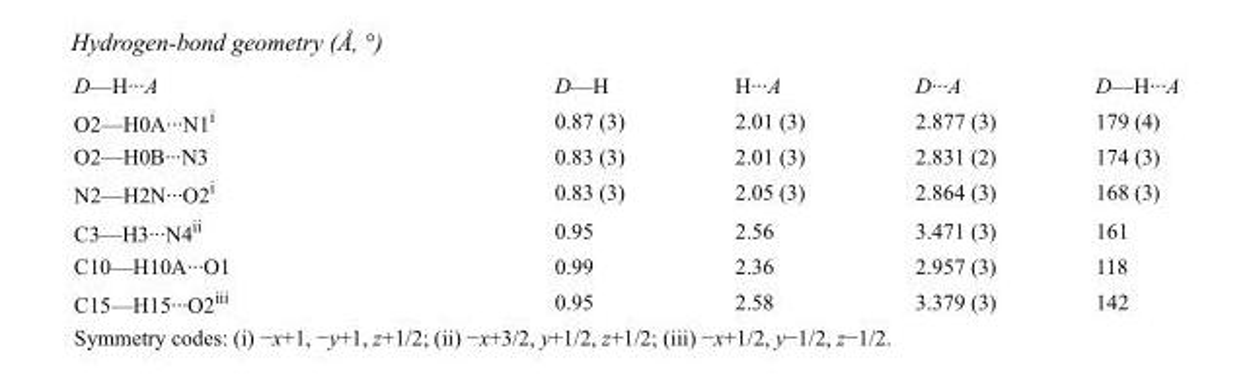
<table><tbody><tr><td>D—H···A</td><td>D—H</td><td>H···A</td><td>D···A</td><td>D—H···A</td></tr><tr><td>O2—H0A···N1<sup>i</sup></td><td>0.87 (3)</td><td>2.01 (3)</td><td>2.877 (3)</td><td>179 (4)</td></tr><tr><td>O2—H0B···N3</td><td>0.83 (3)</td><td>2.01 (3)</td><td>2.831 (2)</td><td>174 (3)</td></tr><tr><td>N2—H2N···O2<sup>i</sup></td><td>0.83 (3)</td><td>2.05 (3)</td><td>2.864 (3)</td><td>168 (3)</td></tr><tr><td>C3—H3···N4<sup>ii</sup></td><td>0.95</td><td>2.56</td><td>3.471 (3)</td><td>161</td></tr><tr><td>C10—H10A···O1</td><td>0.99</td><td>2.36</td><td>2.957 (3)</td><td>118</td></tr><tr><td>C15—H15···O2<sup>iii</sup></td><td>0.95</td><td>2.58</td><td>3.379 (3)</td><td>142</td></tr></tbody></table>